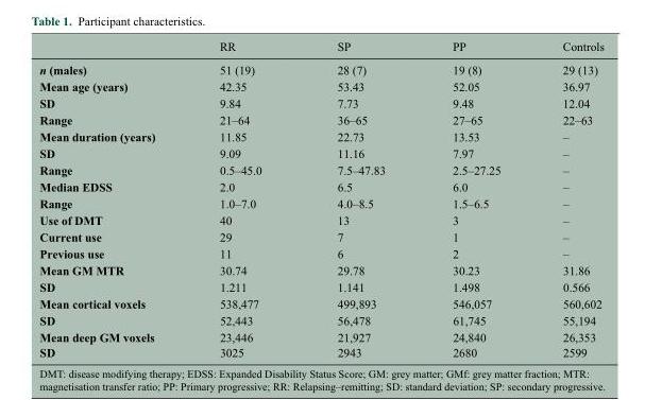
<table><thead><tr><td></td><td>RR</td><td>SP</td><td>PP</td><td>Controls</td></tr></thead><tbody><tr><td>n (males)</td><td>51 (19)</td><td>28 (7)</td><td>19 (8)</td><td>29 (13)</td></tr><tr><td>Mean age (years)</td><td>42.35</td><td>53.43</td><td>52.05</td><td>36.97</td></tr><tr><td>SD</td><td>9.84</td><td>7.73</td><td>9.48</td><td>12.04</td></tr><tr><td>Range</td><td>21–64</td><td>36–65</td><td>27–65</td><td>22–63</td></tr><tr><td>Mean duration (years)</td><td>11.85</td><td>22.73</td><td>13.53</td><td>–</td></tr><tr><td>SD</td><td>9.09</td><td>11.16</td><td>7.97</td><td>–</td></tr><tr><td>Range</td><td>0.5–45.0</td><td>7.5–47.83</td><td>2.5–27.25</td><td>–</td></tr><tr><td>Median EDSS</td><td>2.0</td><td>6.5</td><td>6.0</td><td>–</td></tr><tr><td>Range</td><td>1.0–7.0</td><td>4.0–8.5</td><td>1.5–6.5</td><td>–</td></tr><tr><td>Use of DMT</td><td>40</td><td>13</td><td>3</td><td>–</td></tr><tr><td>Current use</td><td>29</td><td>7</td><td>1</td><td>–</td></tr><tr><td>Previous use</td><td>11</td><td>6</td><td>2</td><td>–</td></tr><tr><td>Mean GM MTR</td><td>30.74</td><td>29.78</td><td>30.23</td><td>31.86</td></tr><tr><td>SD</td><td>1.211</td><td>1.141</td><td>1.498</td><td>0.566</td></tr><tr><td>Mean cortical voxels</td><td>538,477</td><td>499,893</td><td>546,057</td><td>560,602</td></tr><tr><td>SD</td><td>52,443</td><td>56,478</td><td>61,745</td><td>55,194</td></tr><tr><td>Mean deep GM voxels</td><td>23,446</td><td>21,927</td><td>24,840</td><td>26,353</td></tr><tr><td>SD</td><td>3025</td><td>2943</td><td>2680</td><td>2599</td></tr></tbody></table>